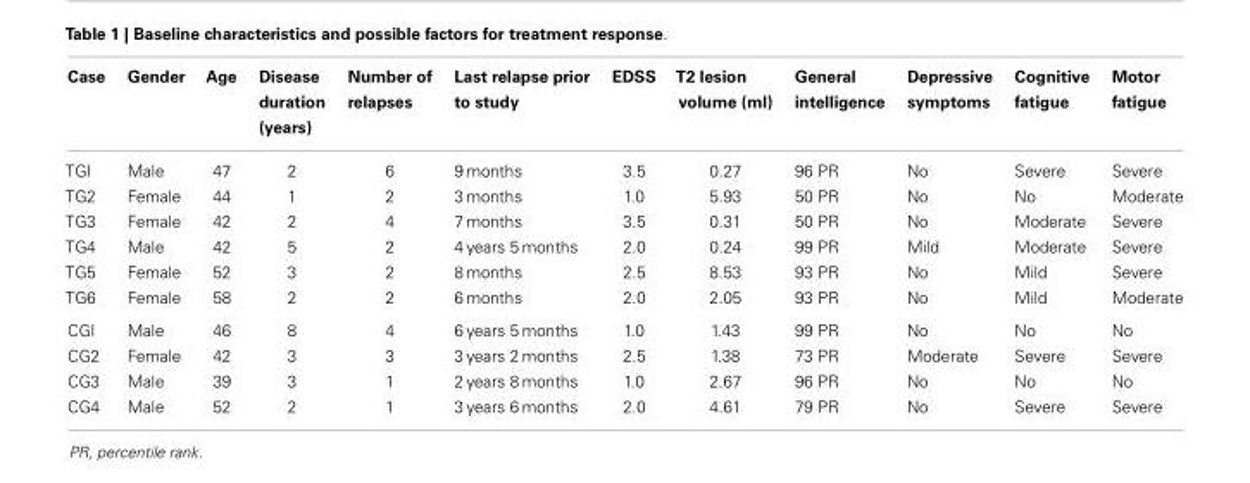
<table><thead><tr><td>Case</td><td>Gender</td><td>Age</td><td>Disease duration (years)</td><td>Number of relapses</td><td>Last relapse prior to study</td><td>EDSS</td><td>T2 lesion volume (ml)</td><td>General intelligence</td><td>Depressive symptoms</td><td>Cognitive fatigue</td><td>Motor fatigue</td></tr></thead><tbody><tr><td>TGI</td><td>Male</td><td>47</td><td>2</td><td>6</td><td>9 months</td><td>3.5</td><td>0.27</td><td>96 PR</td><td>No</td><td>Severe</td><td>Severe</td></tr><tr><td>TG2</td><td>Female</td><td>44</td><td>1</td><td>2</td><td>3 months</td><td>1.0</td><td>5.93</td><td>50 PR</td><td>No</td><td>No</td><td>Moderate</td></tr><tr><td>TG3</td><td>Female</td><td>42</td><td>2</td><td>4</td><td>7 months</td><td>3.5</td><td>0.31</td><td>50 PR</td><td>No</td><td>Moderate</td><td>Severe</td></tr><tr><td>TG4</td><td>Male</td><td>42</td><td>5</td><td>2</td><td>4 years 5 months</td><td>2.0</td><td>0.24</td><td>99 PR</td><td>Mild</td><td>Moderate</td><td>Severe</td></tr><tr><td>TG5</td><td>Female</td><td>52</td><td>3</td><td>2</td><td>8 months</td><td>2.5</td><td>8.53</td><td>93 PR</td><td>No</td><td>Mild</td><td>Severe</td></tr><tr><td>TG6</td><td>Female</td><td>58</td><td>2</td><td>2</td><td>6 months</td><td>2.0</td><td>2.05</td><td>93 PR</td><td>No</td><td>Mild</td><td>Moderate</td></tr><tr><td>CGI</td><td>Male</td><td>46</td><td>8</td><td>4</td><td>6 years 5 months</td><td>1.0</td><td>1.43</td><td>99 PR</td><td>No</td><td>No</td><td>No</td></tr><tr><td>CG2</td><td>Female</td><td>42</td><td>3</td><td>3</td><td>3 years 2 months</td><td>2.5</td><td>1.38</td><td>73 PR</td><td>Moderate</td><td>Severe</td><td>Severe</td></tr><tr><td>CG3</td><td>Male</td><td>39</td><td>3</td><td>1</td><td>2 years 8 months</td><td>1.0</td><td>2.67</td><td>96 PR</td><td>No</td><td>No</td><td>No</td></tr><tr><td>CG4</td><td>Male</td><td>52</td><td>2</td><td>1</td><td>3 years 6 months</td><td>2.0</td><td>4.61</td><td>79 PR</td><td>No</td><td>Severe</td><td>Severe</td></tr></tbody></table>